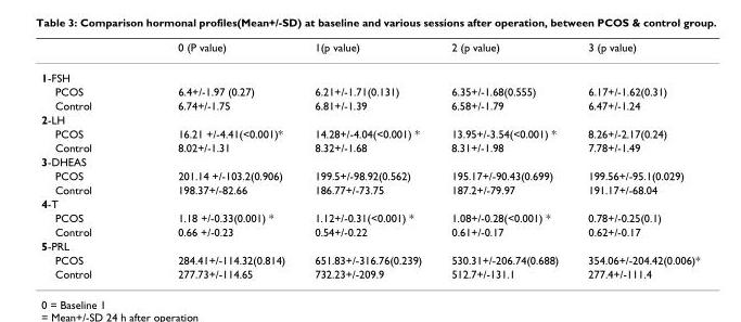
<table><thead><tr><td></td><td>0 (P value)</td><td>1(p value)</td><td>2 (p value)</td><td>3 (p value)</td></tr></thead><tbody><tr><td colspan="5">1-FSH</td></tr><tr><td>PCOS</td><td>6.4+/-1.97 (0.27)</td><td>6.21+/-1.71(0.131)</td><td>6.35+/-1.68(0.555)</td><td>6.17+/-1.62(0.31)</td></tr><tr><td>Control</td><td>6.74+/-1.75</td><td>6.81+/-1.39</td><td>6.58+/-1.79</td><td>6.47+/-1.24</td></tr><tr><td colspan="5">2-LH</td></tr><tr><td>PCOS</td><td>16.21 +/-4.41(&lt;0.001)*</td><td>14.28+/-4.04(&lt;0.001) *</td><td>13.95+/-3.54(&lt;0.001) *</td><td>8.26+/-2.17(0.24)</td></tr><tr><td>Control</td><td>8.02+/-1.31</td><td>8.32+/-1.68</td><td>8.31+/-1.98</td><td>7.78+/-1.49</td></tr><tr><td colspan="5">3-DHEAS</td></tr><tr><td>PCOS</td><td>201.14 +/-103.2(0.906)</td><td>199.5+/-98.92(0.562)</td><td>195.17+/-90.43(0.699)</td><td>199.56+/-95.1(0.029)</td></tr><tr><td>Control</td><td>198.37+/-82.66</td><td>186.77+/-73.75</td><td>187.2+/-79.97</td><td>191.17+/-68.04</td></tr><tr><td colspan="5">4-T</td></tr><tr><td>PCOS</td><td>1.18 +/-0.33(0.001) *</td><td>1.12+/-0.31(&lt;0.001) *</td><td>1.08+/-0.28(&lt;0.001) *</td><td>0.78+/-0.25(0.1)</td></tr><tr><td>Control</td><td>0.66 +/-0.23</td><td>0.54+/-0.22</td><td>0.61+/-0.17</td><td>0.62+/-0.17</td></tr><tr><td colspan="5">5-PRL</td></tr><tr><td>PCOS</td><td>284.41+/-114.32(0.814)</td><td>651.83+/-316.76(0.239)</td><td>530.31+/-206.74(0.688)</td><td>354.06+/-204.42(0.006)*</td></tr><tr><td>Control</td><td>277.73+/-114.65</td><td>732.23+/-209.9</td><td>512.7+/-131.1</td><td>277.4+/-111.4</td></tr></tbody></table>